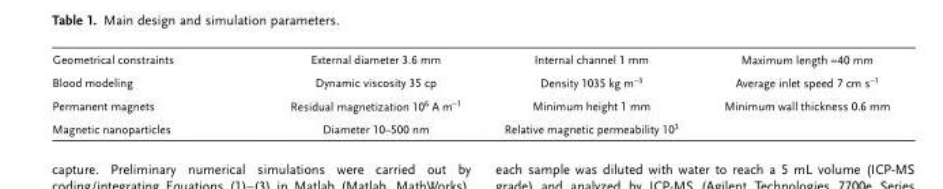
<table><tbody><tr><td>Geometrical constraints</td><td>External diameter 3.6 mm</td><td>Internal channel 1 mm</td><td>Maximum length ≈40 mm</td></tr><tr><td>Blood modeling</td><td>Dynamic viscosity 35 cp</td><td>Density 1035 kg m<sup>−3</sup></td><td>Average inlet speed 7 cm s<sup>−1</sup></td></tr><tr><td>Permanent magnets</td><td>Residual magnetization 10<sup>6</sup> A m<sup>−1</sup></td><td>Minimum height 1 mm</td><td>Minimum wall thickness 0.6 mm</td></tr><tr><td>Magnetic nanoparticles</td><td>Diameter 10–500 nm</td><td>Relative magnetic permeability 10<sup>3</sup></td><td></td></tr></tbody></table>